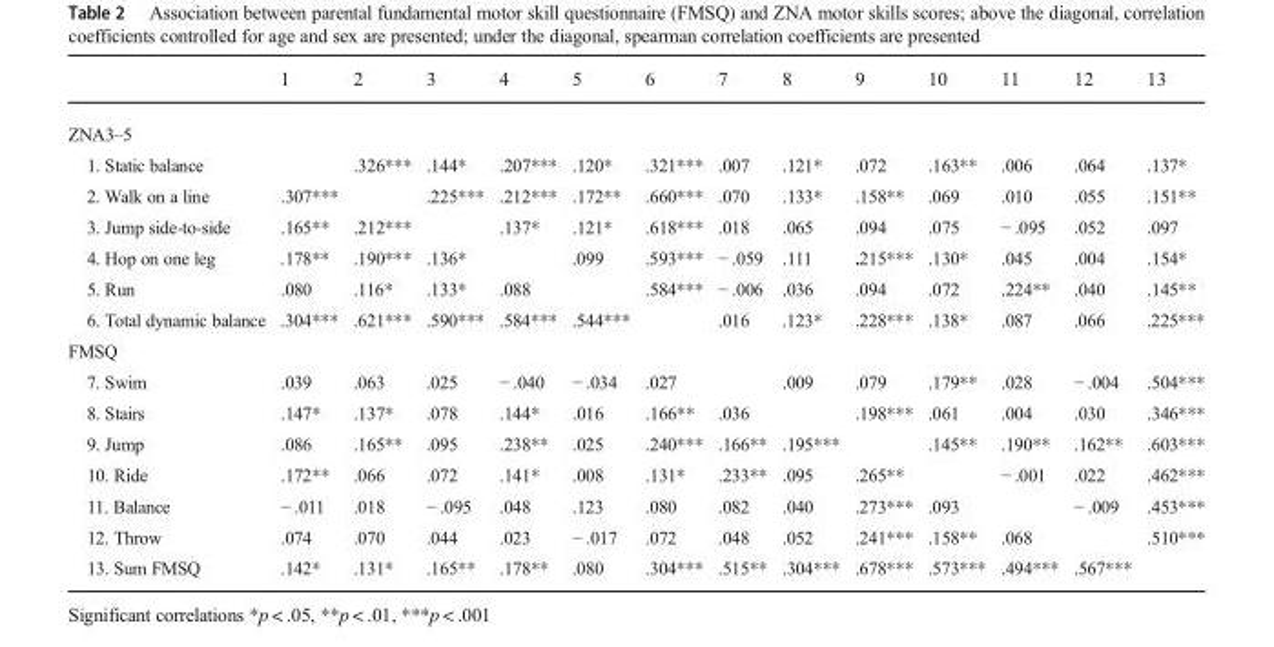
<table><thead><tr><td></td><td>1</td><td>2</td><td>3</td><td>4</td><td>5</td><td>6</td><td>7</td><td>8</td><td>9</td><td>10</td><td>11</td><td>12</td><td>13</td></tr></thead><tbody><tr><td colspan="14">ZNA3–5</td></tr><tr><td>1. Static balance</td><td></td><td>.326***</td><td>.144*</td><td>.207***</td><td>.120*</td><td>.321***</td><td>.007</td><td>.121*</td><td>.072</td><td>.163**</td><td>.006</td><td>.064</td><td>.137*</td></tr><tr><td>2. Walk on a line</td><td>.307***</td><td></td><td>.225***</td><td>.212***</td><td>.172**</td><td>.660***</td><td>.070</td><td>.133*</td><td>.158**</td><td>.069</td><td>.010</td><td>.055</td><td>.151**</td></tr><tr><td>3. Jump side-to-side</td><td>.165**</td><td>.212***</td><td></td><td>.137*</td><td>.121*</td><td>.618***</td><td>.018</td><td>.065</td><td>.094</td><td>.075</td><td>− .095</td><td>.052</td><td>.097</td></tr><tr><td>4. Hop on one leg</td><td>.178**</td><td>.190***</td><td>.136*</td><td></td><td>.099</td><td>.593***</td><td>− .059</td><td>.111</td><td>.215***</td><td>.130*</td><td>.045</td><td>.004</td><td>.154*</td></tr><tr><td>5. Run</td><td>.080</td><td>.116*</td><td>.133*</td><td>.088</td><td></td><td>.584***</td><td>− .006</td><td>.036</td><td>.094</td><td>.072</td><td>.224**</td><td>.040</td><td>.145**</td></tr><tr><td>6. Total dynamic balance</td><td>.304***</td><td>.621***</td><td>.590***</td><td>.584***</td><td>.544***</td><td></td><td>.016</td><td>.123*</td><td>.228***</td><td>.138*</td><td>.087</td><td>.066</td><td>.225***</td></tr><tr><td colspan="14">FMSQ</td></tr><tr><td>7. Swim</td><td>.039</td><td>.063</td><td>.025</td><td>− .040</td><td>− .034</td><td>.027</td><td></td><td>.009</td><td>.079</td><td>.179**</td><td>.028</td><td>− .004</td><td>.504***</td></tr><tr><td>8. Stairs</td><td>.147*</td><td>.137*</td><td>.078</td><td>.144*</td><td>.016</td><td>.166**</td><td>.036</td><td></td><td>.198***</td><td>.061</td><td>.004</td><td>.030</td><td>.346***</td></tr><tr><td>9. Jump</td><td>.086</td><td>.165**</td><td>.095</td><td>.238**</td><td>.025</td><td>.240***</td><td>.166**</td><td>.195***</td><td></td><td>.145**</td><td>.190**</td><td>.162**</td><td>.603***</td></tr><tr><td>10. Ride</td><td>.172**</td><td>.066</td><td>.072</td><td>.141*</td><td>.008</td><td>.131*</td><td>.233**</td><td>.095</td><td>.265**</td><td></td><td>− .001</td><td>.022</td><td>.462***</td></tr><tr><td>11. Balance</td><td>− .011</td><td>.018</td><td>− .095</td><td>.048</td><td>.123</td><td>.080</td><td>.082</td><td>.040</td><td>.273***</td><td>.093</td><td></td><td>− .009</td><td>.453***</td></tr><tr><td>12. Throw</td><td>.074</td><td>.070</td><td>.044</td><td>.023</td><td>− .017</td><td>.072</td><td>.048</td><td>.052</td><td>.241***</td><td>.158**</td><td>.068</td><td></td><td>.510***</td></tr><tr><td>13. Sum FMSQ</td><td>.142*</td><td>.131*</td><td>.165**</td><td>.178**</td><td>.080</td><td>.304***</td><td>.515**</td><td>.304***</td><td>.678***</td><td>.573***</td><td>.494***</td><td>.567***</td><td></td></tr></tbody></table>